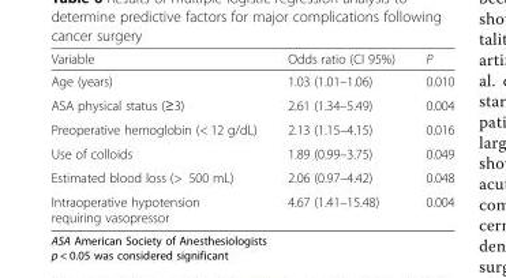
<table><thead><tr><td>Variable</td><td>Odds ratio (CI 95%)</td><td>P</td></tr></thead><tbody><tr><td>Age (years)</td><td>1.03 (1.01–1.06)</td><td>0.010</td></tr><tr><td>ASA physical status (≥3)</td><td>2.61 (1.34–5.49)</td><td>0.004</td></tr><tr><td>Preoperative hemoglobin (&lt; 12 g/dL)</td><td>2.13 (1.15–4.15)</td><td>0.016</td></tr><tr><td>Use of colloids</td><td>1.89 (0.99–3.75)</td><td>0.049</td></tr><tr><td>Estimated blood loss (&gt; 500 mL)</td><td>2.06 (0.97–4.42)</td><td>0.048</td></tr><tr><td>Intraoperative hypotension requiring vasopressor</td><td>4.67 (1.41–15.48)</td><td>0.004</td></tr></tbody></table>